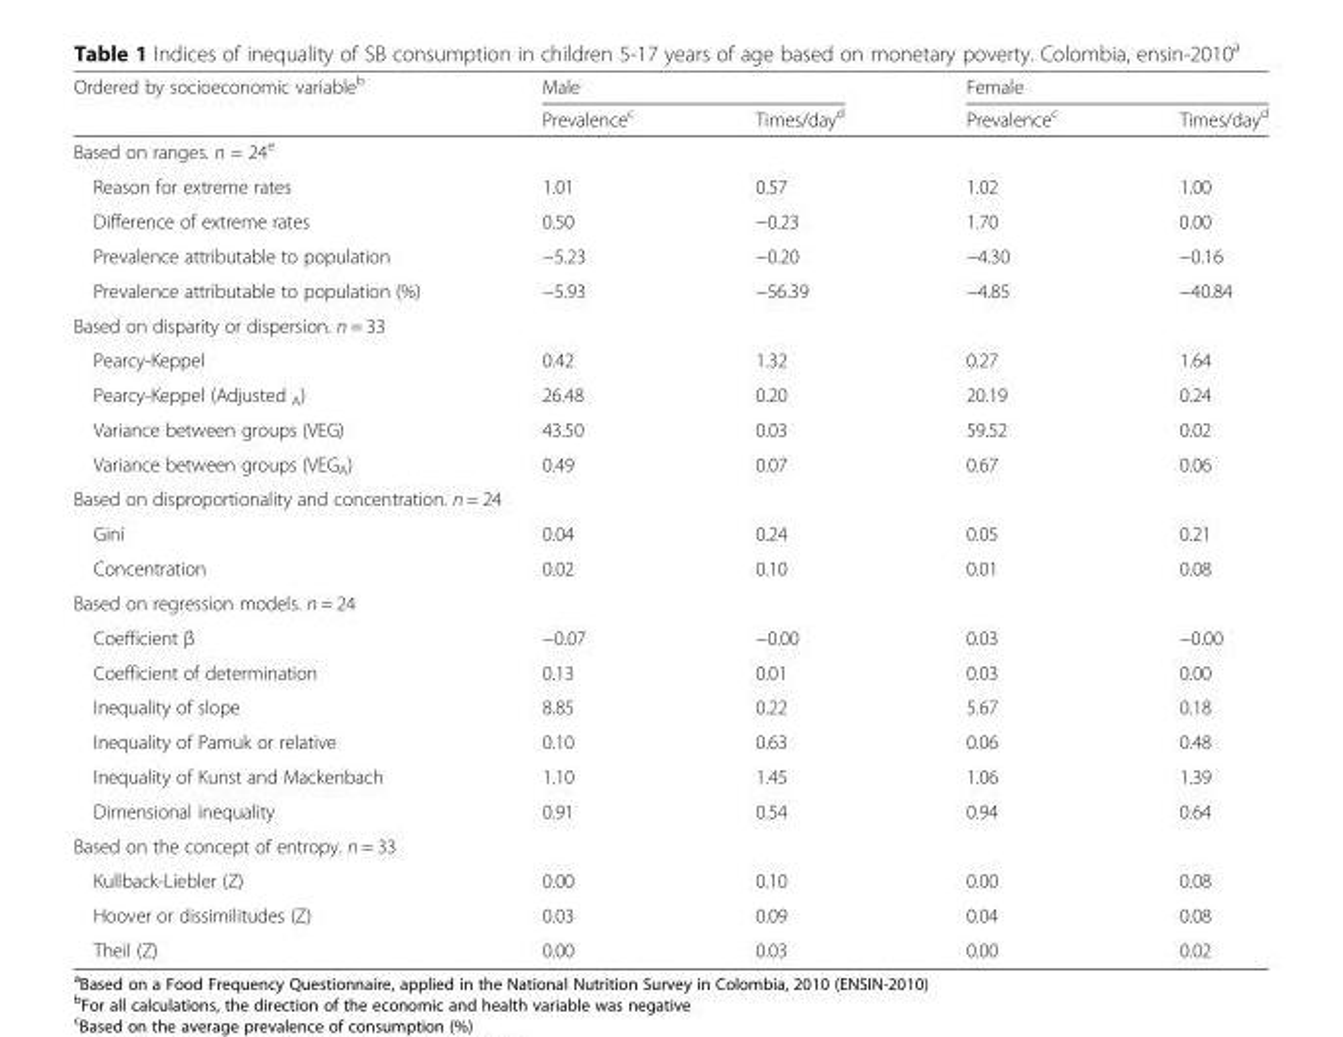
<table><thead><tr><td rowspan="2">Ordered by socioeconomic variable<sup>b</sup></td><td colspan="2">Male</td><td colspan="2">Female</td></tr><tr><td>Prevalence<sup>c</sup></td><td>Times/day<sup>d</sup></td><td>Prevalence<sup>c</sup></td><td>Times/day<sup>d</sup></td></tr></thead><tbody><tr><td colspan="5">Based on ranges. n = 24<sup>e</sup></td></tr><tr><td>Reason for extreme rates</td><td>1.01</td><td>0.57</td><td>1.02</td><td>1.00</td></tr><tr><td>Difference of extreme rates</td><td>0.50</td><td>−0.23</td><td>1.70</td><td>0.00</td></tr><tr><td>Prevalence attributable to population</td><td>−5.23</td><td>−0.20</td><td>−4.30</td><td>−0.16</td></tr><tr><td>Prevalence attributable to population (%)</td><td>−5.93</td><td>−56.39</td><td>−4.85</td><td>−40.84</td></tr><tr><td colspan="5">Based on disparity or dispersion. n = 33</td></tr><tr><td>Pearcy-Keppel</td><td>0.42</td><td>1.32</td><td>0.27</td><td>1.64</td></tr><tr><td>Pearcy-Keppel (Adjusted <sub>A</sub>)</td><td>26.48</td><td>0.20</td><td>20.19</td><td>0.24</td></tr><tr><td>Variance between groups (VEG)</td><td>43.50</td><td>0.03</td><td>59.52</td><td>0.02</td></tr><tr><td>Variance between groups (VEG<sub>A</sub>)</td><td>0.49</td><td>0.07</td><td>0.67</td><td>0.06</td></tr><tr><td colspan="5">Based on disproportionality and concentration. n = 24</td></tr><tr><td>Gini</td><td>0.04</td><td>0.24</td><td>0.05</td><td>0.21</td></tr><tr><td>Concentration</td><td>0.02</td><td>0.10</td><td>0.01</td><td>0.08</td></tr><tr><td colspan="5">Based on regression models. n = 24</td></tr><tr><td>Coefficient β</td><td>−0.07</td><td>−0.00</td><td>0.03</td><td>−0.00</td></tr><tr><td>Coefficient of determination</td><td>0.13</td><td>0.01</td><td>0.03</td><td>0.00</td></tr><tr><td>Inequality of slope</td><td>8.85</td><td>0.22</td><td>5.67</td><td>0.18</td></tr><tr><td>Inequality of Pamuk or relative</td><td>0.10</td><td>0.63</td><td>0.06</td><td>0.48</td></tr><tr><td>Inequality of Kunst and Mackenbach</td><td>1.10</td><td>1.45</td><td>1.06</td><td>1.39</td></tr><tr><td>Dimensional inequality</td><td>0.91</td><td>0.54</td><td>0.94</td><td>0.64</td></tr><tr><td colspan="5">Based on the concept of entropy. n = 33</td></tr><tr><td>Kullback-Liebler (Z)</td><td>0.00</td><td>0.10</td><td>0.00</td><td>0.08</td></tr><tr><td>Hoover or dissimilitudes (Z)</td><td>0.03</td><td>0.09</td><td>0.04</td><td>0.08</td></tr><tr><td>Theil (Z)</td><td>0.00</td><td>0.03</td><td>0.00</td><td>0.02</td></tr></tbody></table>